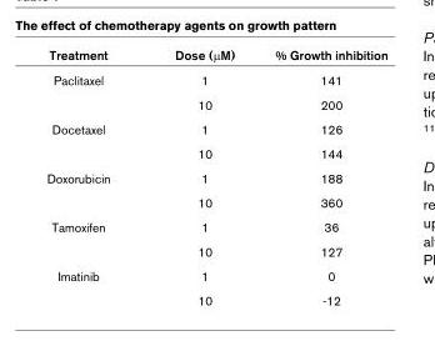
<table><thead><tr><td>Treatment</td><td>Dose (μM)</td><td>% Growth inhibition</td></tr></thead><tbody><tr><td rowspan="2">Paclitaxel</td><td>1</td><td>141</td></tr><tr><td>10</td><td>200</td></tr><tr><td rowspan="2">Docetaxel</td><td>1</td><td>126</td></tr><tr><td>10</td><td>144</td></tr><tr><td rowspan="2">Doxorubicin</td><td>1</td><td>188</td></tr><tr><td>10</td><td>360</td></tr><tr><td rowspan="2">Tamoxifen</td><td>1</td><td>36</td></tr><tr><td>10</td><td>127</td></tr><tr><td rowspan="2">Imatinib</td><td>1</td><td>0</td></tr><tr><td>10</td><td>-12</td></tr></tbody></table>